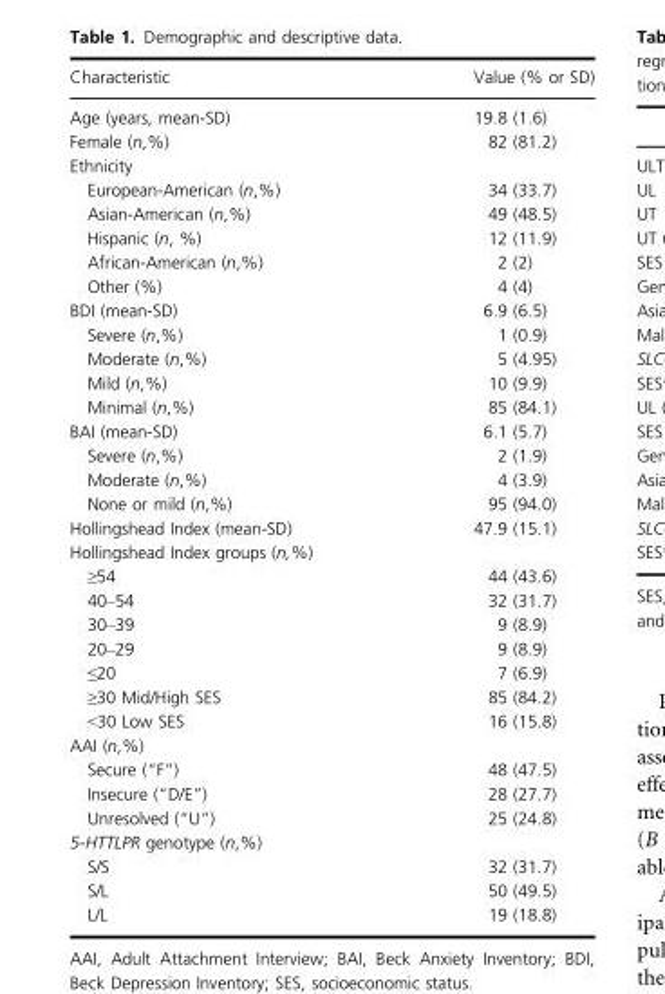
<table><thead><tr><td>Characteristic</td><td>Value (% or SD)</td></tr></thead><tbody><tr><td>Age (years, mean-SD)</td><td>19.8 (1.6)</td></tr><tr><td>Female (n,%)</td><td>82 (81.2)</td></tr><tr><td colspan="2">Ethnicity</td></tr><tr><td>European-American (n,%)</td><td>34 (33.7)</td></tr><tr><td>Asian-American (n,%)</td><td>49 (48.5)</td></tr><tr><td>Hispanic (n, %)</td><td>12 (11.9)</td></tr><tr><td>African-American (n,%)</td><td>2 (2)</td></tr><tr><td>Other (%)</td><td>4 (4)</td></tr><tr><td>BDI (mean-SD)</td><td>6.9 (6.5)</td></tr><tr><td>Severe (n,%)</td><td>1 (0.9)</td></tr><tr><td>Moderate (n,%)</td><td>5 (4.95)</td></tr><tr><td>Mild (n,%)</td><td>10 (9.9)</td></tr><tr><td>Minimal (n,%)</td><td>85 (84.1)</td></tr><tr><td>BAI (mean-SD)</td><td>6.1 (5.7)</td></tr><tr><td>Severe (n,%)</td><td>2 (1.9)</td></tr><tr><td>Moderate (n,%)</td><td>4 (3.9)</td></tr><tr><td>None or mild (n,%)</td><td>95 (94.0)</td></tr><tr><td>Hollingshead Index (mean-SD)</td><td>47.9 (15.1)</td></tr><tr><td colspan="2">Hollingshead Index groups (n,%)</td></tr><tr><td>≥54</td><td>44 (43.6)</td></tr><tr><td>40–54</td><td>32 (31.7)</td></tr><tr><td>30–39</td><td>9 (8.9)</td></tr><tr><td>20–29</td><td>9 (8.9)</td></tr><tr><td>≤20</td><td>7 (6.9)</td></tr><tr><td>≥30 Mid/High SES</td><td>85 (84.2)</td></tr><tr><td>&lt;30 Low SES</td><td>16 (15.8)</td></tr><tr><td colspan="2">AAI (n,%)</td></tr><tr><td>Secure (“F”)</td><td>48 (47.5)</td></tr><tr><td>Insecure (“D/E”)</td><td>28 (27.7)</td></tr><tr><td>Unresolved (“U”)</td><td>25 (24.8)</td></tr><tr><td colspan="2">5-HTTLPR genotype (n,%)</td></tr><tr><td>S/S</td><td>32 (31.7)</td></tr><tr><td>S/L</td><td>50 (49.5)</td></tr><tr><td>L/L</td><td>19 (18.8)</td></tr></tbody></table>